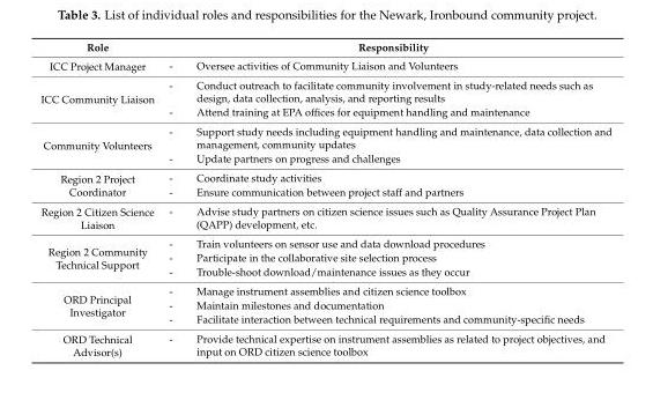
<table><thead><tr><td>Role</td><td>Responsibility</td></tr></thead><tbody><tr><td>ICC Project Manager</td><td>- Oversee activities of Community Liaison and Volunteers</td></tr><tr><td>ICC Community Liaison</td><td>- Conduct outreach to facilitate community involvement in study-related needs such as design, data collection, analysis, and reporting results - Attend training at EPA offices for equipment handling and maintenance</td></tr><tr><td>Community Volunteers</td><td>- Support study needs including equipment handling and maintenance, data collection and management, community updates - Update partners on progress and challenges</td></tr><tr><td>Region 2 Project Coordinator</td><td>- Coordinate study activities - Ensure communication between project staff and partners</td></tr><tr><td>Region 2 Citizen Science Liaison</td><td>- Advise study partners on citizen science issues such as Quality Assurance Project Plan (QAPP) development, etc.</td></tr><tr><td>Region 2 Community Technical Support</td><td>- Train volunteers on sensor use and data download procedures - Participate in the collaborative site selection process - Trouble-shoot download/maintenance issues as they occur</td></tr><tr><td>ORD Principal Investigator</td><td>- Manage instrument assemblies and citizen science toolbox - Maintain milestones and documentation - Facilitate interaction between technical requirements and community-specific needs</td></tr><tr><td>ORD Technical Advisor(s)</td><td>- Provide technical expertise on instrument assemblies as related to project objectives, and input on ORD citizen science toolbox</td></tr></tbody></table>